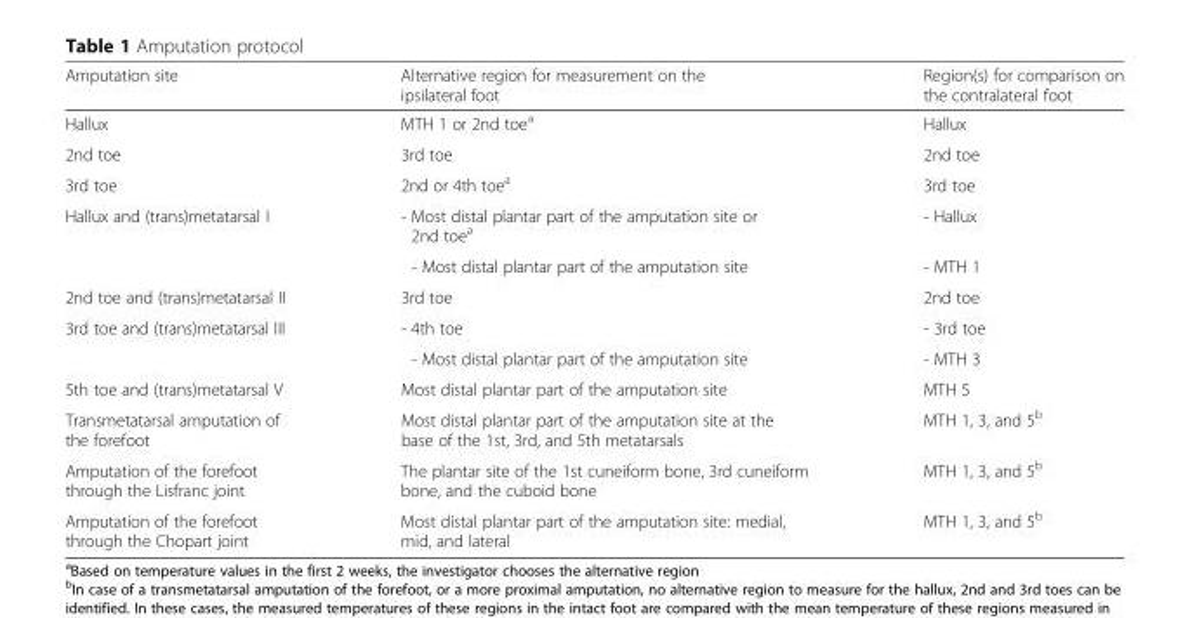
<table><thead><tr><td>Amputation site</td><td>Alternative region for measurement on the ipsilateral foot</td><td>Region(s) for comparison on the contralateral foot</td></tr></thead><tbody><tr><td>Hallux</td><td>MTH 1 or 2nd toe<sup>a</sup></td><td>Hallux</td></tr><tr><td>2nd toe</td><td>3rd toe</td><td>2nd toe</td></tr><tr><td>3rd toe</td><td>2nd or 4th toe<sup>a</sup></td><td>3rd toe</td></tr><tr><td rowspan="2">Hallux and (trans)metatarsal I</td><td>- Most distal plantar part of the amputation site or 2nd toe<sup>a</sup></td><td>- Hallux</td></tr><tr><td>- Most distal plantar part of the amputation site</td><td>- MTH 1</td></tr><tr><td>2nd toe and (trans)metatarsal II</td><td>3rd toe</td><td>2nd toe</td></tr><tr><td rowspan="2">3rd toe and (trans)metatarsal III</td><td>- 4th toe</td><td>- 3rd toe</td></tr><tr><td>- Most distal plantar part of the amputation site</td><td>- MTH 3</td></tr><tr><td>5th toe and (trans)metatarsal V</td><td>Most distal plantar part of the amputation site</td><td>MTH 5</td></tr><tr><td>Transmetatarsal amputation of the forefoot</td><td>Most distal plantar part of the amputation site at the base of the 1st, 3rd, and 5th metatarsals</td><td>MTH 1, 3, and 5<sup>b</sup></td></tr><tr><td>Amputation of the forefoot through the Lisfranc joint</td><td>The plantar site of the 1st cuneiform bone, 3rd cuneiform bone, and the cuboid bone</td><td>MTH 1, 3, and 5<sup>b</sup></td></tr><tr><td>Amputation of the forefoot through the Chopart joint</td><td>Most distal plantar part of the amputation site: medial, mid, and lateral</td><td>MTH 1, 3, and 5<sup>b</sup></td></tr></tbody></table>